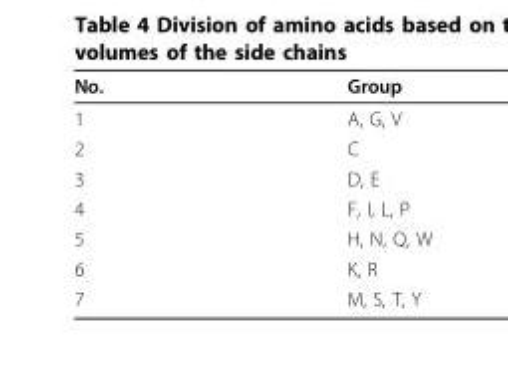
<table><thead><tr><td>No.</td><td>Group</td></tr></thead><tbody><tr><td>1</td><td>A, G, V</td></tr><tr><td>2</td><td>C</td></tr><tr><td>3</td><td>D, E</td></tr><tr><td>4</td><td>F, I, L, P</td></tr><tr><td>5</td><td>H, N, Q, W</td></tr><tr><td>6</td><td>K, R</td></tr><tr><td>7</td><td>M, S, T, Y</td></tr></tbody></table>